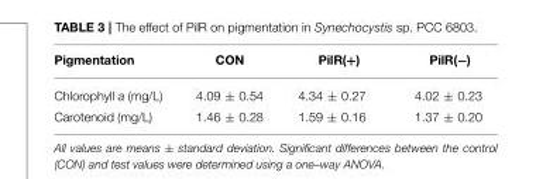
<table><thead><tr><td>Pigmentation</td><td>CON</td><td>PilR(+)</td><td>PilR(−)</td></tr></thead><tbody><tr><td>Chlorophyll a (mg/L)</td><td>4.09 ± 0.54</td><td>4.34 ± 0.27</td><td>4.02 ± 0.23</td></tr><tr><td>Carotenoid (mg/L)</td><td>1.46 ± 0.28</td><td>1.59 ± 0.16</td><td>1.37 ± 0.20</td></tr></tbody></table>